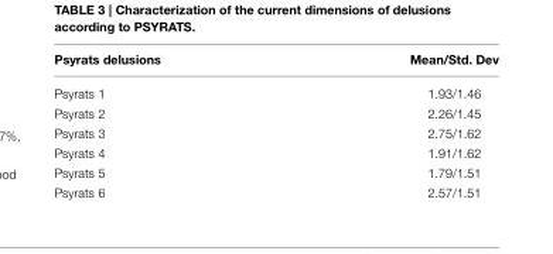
<table><thead><tr><td>Psyrats delusions</td><td>Mean/Std. Dev</td></tr></thead><tbody><tr><td>Psyrats 1</td><td>1.93/1.46</td></tr><tr><td>Psyrats 2</td><td>2.26/1.45</td></tr><tr><td>Psyrats 3</td><td>2.75/1.62</td></tr><tr><td>Psyrats 4</td><td>1.91/1.62</td></tr><tr><td>Psyrats 5</td><td>1.79/1.51</td></tr><tr><td>Psyrats 6</td><td>2.57/1.51</td></tr></tbody></table>